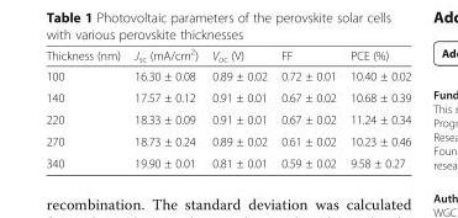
<table><thead><tr><td>Thickness (nm)</td><td>J<sub>sc</sub> (mA/cm<sup>2</sup>)</td><td>V<sub>oc</sub> (V)</td><td>FF</td><td>PCE (%)</td></tr></thead><tbody><tr><td>100</td><td>16.30 ± 0.08</td><td>0.89 ± 0.02</td><td>0.72 ± 0.01</td><td>10.40 ± 0.02</td></tr><tr><td>140</td><td>17.57 ± 0.12</td><td>0.91 ± 0.01</td><td>0.67 ± 0.02</td><td>10.68 ± 0.39</td></tr><tr><td>220</td><td>18.33 ± 0.09</td><td>0.91 ± 0.01</td><td>0.67 ± 0.02</td><td>11.24 ± 0.34</td></tr><tr><td>270</td><td>18.73 ± 0.24</td><td>0.89 ± 0.02</td><td>0.61 ± 0.02</td><td>10.23 ± 0.46</td></tr><tr><td>340</td><td>19.90 ± 0.01</td><td>0.81 ± 0.01</td><td>0.59 ± 0.02</td><td>9.58 ± 0.27</td></tr></tbody></table>